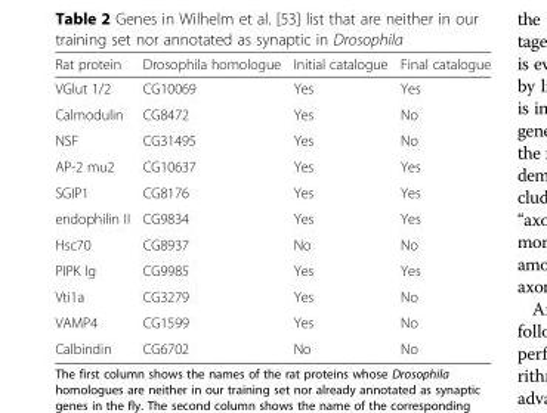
<table><thead><tr><td>Rat protein</td><td>Drosophila homologue</td><td>Initial catalogue</td><td>Final catalogue</td></tr></thead><tbody><tr><td>VGlut 1/2</td><td>CG10069</td><td>Yes</td><td>Yes</td></tr><tr><td>Calmodulin</td><td>CG8472</td><td>Yes</td><td>No</td></tr><tr><td>NSF</td><td>CG31495</td><td>Yes</td><td>No</td></tr><tr><td>AP-2 mu2</td><td>CG10637</td><td>Yes</td><td>Yes</td></tr><tr><td>SGIP1</td><td>CG8176</td><td>Yes</td><td>Yes</td></tr><tr><td>endophilin II</td><td>CG9834</td><td>Yes</td><td>Yes</td></tr><tr><td>Hsc70</td><td>CG8937</td><td>No</td><td>No</td></tr><tr><td>PIPK Ig</td><td>CG9985</td><td>Yes</td><td>Yes</td></tr><tr><td>Vti1a</td><td>CG3279</td><td>Yes</td><td>No</td></tr><tr><td>VAMP4</td><td>CG1599</td><td>Yes</td><td>No</td></tr><tr><td>Calbindin</td><td>CG6702</td><td>No</td><td>No</td></tr></tbody></table>